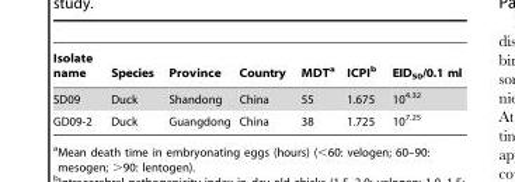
<table><thead><tr><td>Isolate name</td><td>Species</td><td>Province</td><td>Country</td><td>MDT<sup>a</sup></td><td>ICPI<sup>b</sup></td><td>EID<sub>50</sub>/0.1 ml</td></tr></thead><tbody><tr><td>SD09</td><td>Duck</td><td>Shandong</td><td>China</td><td>55</td><td>1.675</td><td>10<sup>4.32</sup></td></tr><tr><td>GD09-2</td><td>Duck</td><td>Guangdong</td><td>China</td><td>38</td><td>1.725</td><td>10<sup>7.25</sup></td></tr></tbody></table>